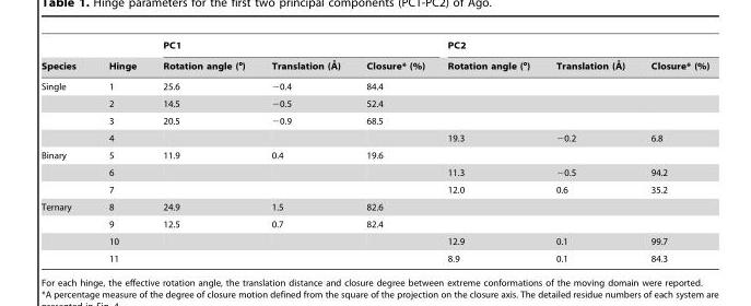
<table><thead><tr><td rowspan="2">Species</td><td rowspan="2">Hinge</td><td colspan="3">PC1</td><td colspan="3">PC2</td></tr><tr><td>Rotation angle (°)</td><td>Translation (A˚ )</td><td>Closure* (%)</td><td>Rotation angle (°)</td><td>Translation (A˚)</td><td>Closure* (%)</td></tr></thead><tbody><tr><td rowspan="4">Single</td><td>1</td><td>25.6</td><td>−0.4</td><td>84.4</td><td></td><td></td><td></td></tr><tr><td>2</td><td>14.5</td><td>−0.5</td><td>52.4</td><td></td><td></td><td></td></tr><tr><td>3</td><td>20.5</td><td>−0.9</td><td>68.5</td><td></td><td></td><td></td></tr><tr><td>4</td><td></td><td></td><td></td><td>19.3</td><td>−0.2</td><td>6.8</td></tr><tr><td rowspan="3">Binary</td><td>5</td><td>11.9</td><td>0.4</td><td>19.6</td><td></td><td></td><td></td></tr><tr><td>6</td><td></td><td></td><td></td><td>11.3</td><td>−0.5</td><td>94.2</td></tr><tr><td>7</td><td></td><td></td><td></td><td>12.0</td><td>0.6</td><td>35.2</td></tr><tr><td rowspan="4">Ternary</td><td>8</td><td>24.9</td><td>1.5</td><td>82.6</td><td></td><td></td><td></td></tr><tr><td>9</td><td>12.5</td><td>0.7</td><td>82.4</td><td></td><td></td><td></td></tr><tr><td>10</td><td></td><td></td><td></td><td>12.9</td><td>0.1</td><td>99.7</td></tr><tr><td>11</td><td></td><td></td><td></td><td>8.9</td><td>0.1</td><td>84.3</td></tr></tbody></table>